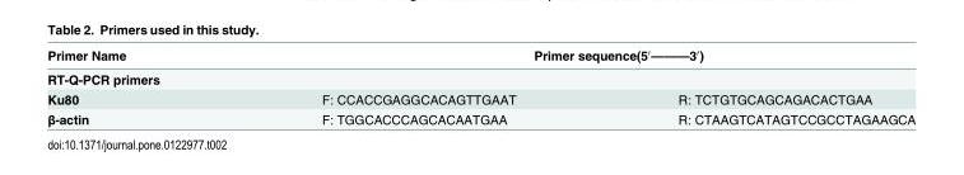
<table><thead><tr><td rowspan="3">Primer Name RT-Q-PCR primers Ku80</td><td rowspan="2" colspan="2">Primer sequence(5′———3′)</td></tr><tr></tr><tr><td>F: CCACCGAGGCACAGTTGAAT</td><td>R: TCTGTGCAGCAGACACTGAA</td></tr></thead><tbody><tr><td>β-actin</td><td>F: TGGCACCCAGCACAATGAA</td><td>R: CTAAGTCATAGTCCGCCTAGAAGCA</td></tr></tbody></table>